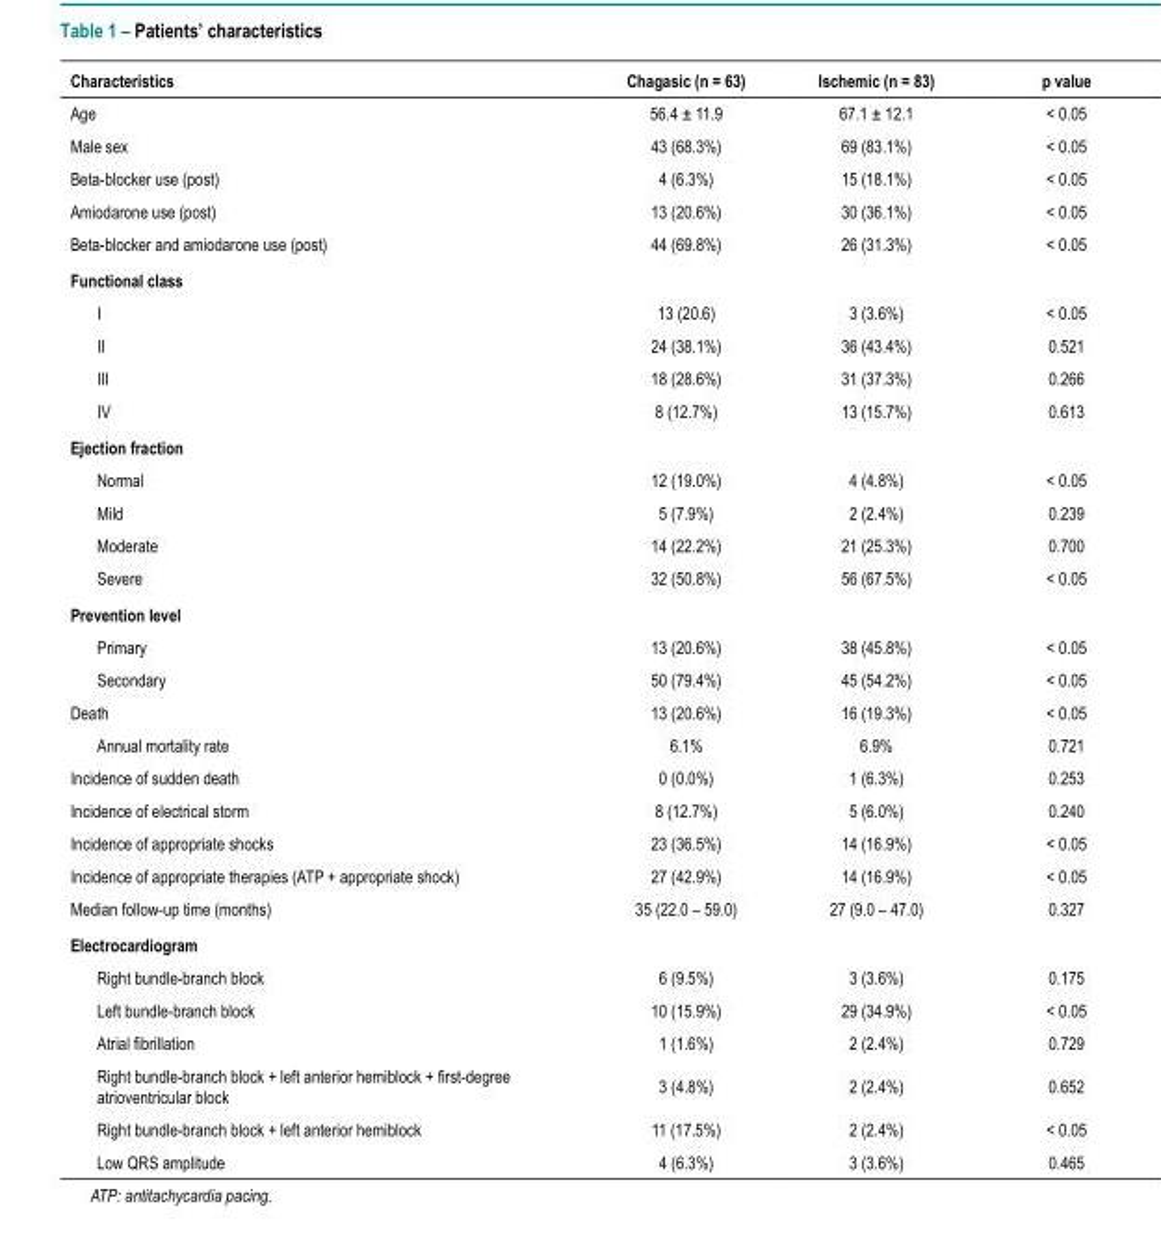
<table><thead><tr><td>Characteristics</td><td>Chagasic (n = 63)</td><td>Ischemic (n = 83)</td><td>p value</td></tr></thead><tbody><tr><td>Age</td><td>56.4 ± 11.9</td><td>67.1 ± 12.1</td><td>&lt; 0.05</td></tr><tr><td>Male sex</td><td>43 (68.3%)</td><td>69 (83.1%)</td><td>&lt; 0.05</td></tr><tr><td>Beta-blocker use (post)</td><td>4 (6.3%)</td><td>15 (18.1%)</td><td>&lt; 0.05</td></tr><tr><td>Amiodarone use (post)</td><td>13 (20.6%)</td><td>30 (36.1%)</td><td>&lt; 0.05</td></tr><tr><td>Beta-blocker and amiodarone use (post)</td><td>44 (69.8%)</td><td>26 (31.3%)</td><td>&lt; 0.05</td></tr><tr><td colspan="4">Functional class</td></tr><tr><td>I</td><td>13 (20.6)</td><td>3 (3.6%)</td><td>&lt; 0.05</td></tr><tr><td>II</td><td>24 (38.1%)</td><td>36 (43.4%)</td><td>0.521</td></tr><tr><td>III</td><td>18 (28.6%)</td><td>31 (37.3%)</td><td>0.266</td></tr><tr><td>IV</td><td>8 (12.7%)</td><td>13 (15.7%)</td><td>0.613</td></tr><tr><td colspan="4">Ejection fraction</td></tr><tr><td>Normal</td><td>12 (19.0%)</td><td>4 (4.8%)</td><td>&lt; 0.05</td></tr><tr><td>Mild</td><td>5 (7.9%)</td><td>2 (2.4%)</td><td>0.239</td></tr><tr><td>Moderate</td><td>14 (22.2%)</td><td>21 (25.3%)</td><td>0.700</td></tr><tr><td>Severe</td><td>32 (50.8%)</td><td>56 (67.5%)</td><td>&lt; 0.05</td></tr><tr><td colspan="4">Prevention level</td></tr><tr><td>Primary</td><td>13 (20.6%)</td><td>38 (45.8%)</td><td>&lt; 0.05</td></tr><tr><td>Secondary</td><td>50 (79.4%)</td><td>45 (54.2%)</td><td>&lt; 0.05</td></tr><tr><td>Death</td><td>13 (20.6%)</td><td>16 (19.3%)</td><td>&lt; 0.05</td></tr><tr><td>Annual mortality rate</td><td>6.1%</td><td>6.9%</td><td>0.721</td></tr><tr><td>Incidence of sudden death</td><td>0 (0.0%)</td><td>1 (6.3%)</td><td>0.253</td></tr><tr><td>Incidence of electrical storm</td><td>8 (12.7%)</td><td>5 (6.0%)</td><td>0.240</td></tr><tr><td>Incidence of appropriate shocks</td><td>23 (36.5%)</td><td>14 (16.9%)</td><td>&lt; 0.05</td></tr><tr><td>Incidence of appropriate therapies (ATP + appropriate shock)</td><td>27 (42.9%)</td><td>14 (16.9%)</td><td>&lt; 0.05</td></tr><tr><td>Median follow-up time (months)</td><td>35 (22.0 – 59.0)</td><td>27 (9.0 – 47.0)</td><td>0.327</td></tr><tr><td colspan="4">Electrocardiogram</td></tr><tr><td>Right bundle-branch block</td><td>6 (9.5%)</td><td>3 (3.6%)</td><td>0.175</td></tr><tr><td>Left bundle-branch block</td><td>10 (15.9%)</td><td>29 (34.9%)</td><td>&lt; 0.05</td></tr><tr><td>Atrial fibrillation</td><td>1 (1.6%)</td><td>2 (2.4%)</td><td>0.729</td></tr><tr><td>Right bundle-branch block + left anterior hemiblock + first-degree atrioventricular block</td><td>3 (4.8%)</td><td>2 (2.4%)</td><td>0.652</td></tr><tr><td>Right bundle-branch block + left anterior hemiblock</td><td>11 (17.5%)</td><td>2 (2.4%)</td><td>&lt; 0.05</td></tr><tr><td>Low QRS amplitude</td><td>4 (6.3%)</td><td>3 (3.6%)</td><td>0.465</td></tr></tbody></table>